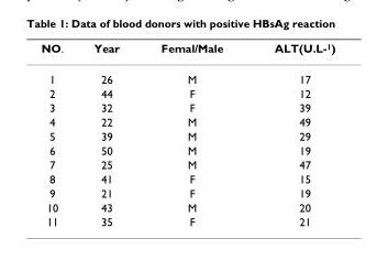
<table><thead><tr><td>NO.</td><td>Year</td><td>Femal/Male</td><td>ALT(U.L-<sup>1</sup>)</td></tr></thead><tbody><tr><td>1</td><td>26</td><td>M</td><td>17</td></tr><tr><td>2</td><td>44</td><td>F</td><td>12</td></tr><tr><td>3</td><td>32</td><td>F</td><td>39</td></tr><tr><td>4</td><td>22</td><td>M</td><td>49</td></tr><tr><td>5</td><td>39</td><td>M</td><td>29</td></tr><tr><td>6</td><td>50</td><td>M</td><td>19</td></tr><tr><td>7</td><td>25</td><td>M</td><td>47</td></tr><tr><td>8</td><td>41</td><td>F</td><td>15</td></tr><tr><td>9</td><td>21</td><td>F</td><td>19</td></tr><tr><td>10</td><td>43</td><td>M</td><td>20</td></tr><tr><td>11</td><td>35</td><td>F</td><td>21</td></tr></tbody></table>